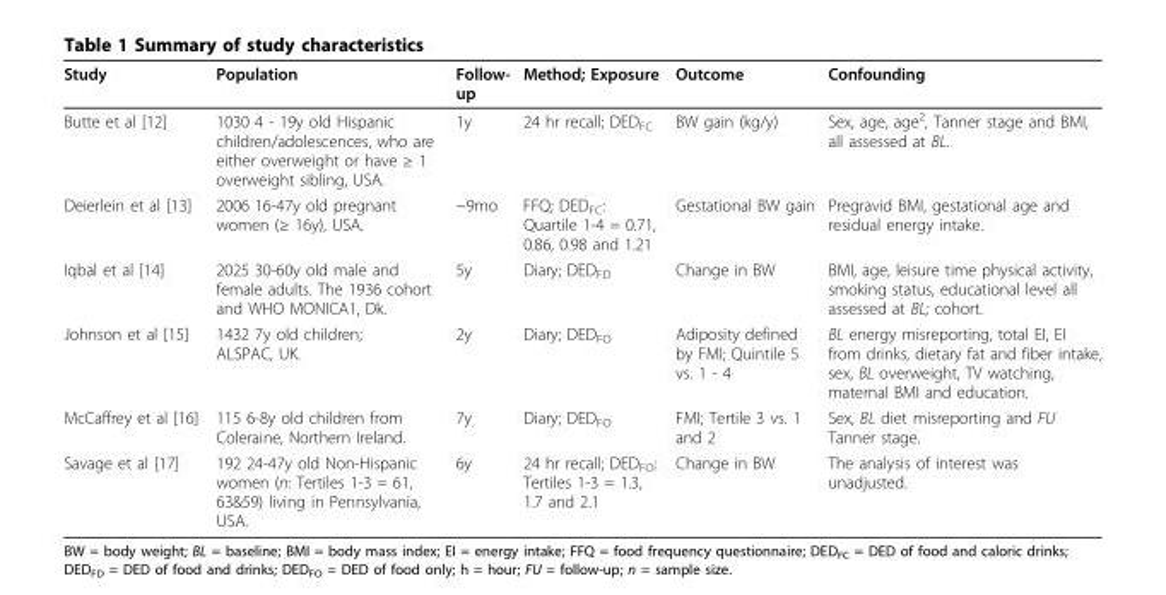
<table><thead><tr><td>Study</td><td>Population</td><td>Follow- up</td><td>Method; Exposure</td><td>Outcome</td><td>Confounding</td></tr></thead><tbody><tr><td>Butte et al [12]</td><td>1030 4 - 19y old Hispanic children/adolescences, who are either overweight or have ≥ 1 overweight sibling, USA.</td><td>1y</td><td>24 hr recall; DED<sub>FC</sub></td><td>BW gain (kg/y)</td><td>Sex, age, age<sup>2</sup>, Tanner stage and BMI, all assessed at BL.</td></tr><tr><td>Deierlein et al [13]</td><td>2006 16-47y old pregnant women (≥ 16y), USA.</td><td>~9mo</td><td>FFQ; DED<sub>FC</sub>: Quartile 1-4 = 0.71, 0.86, 0.98 and 1.21</td><td>Gestational BW gain</td><td>Pregravid BMI, gestational age and residual energy intake.</td></tr><tr><td>Iqbal et al [14]</td><td>2025 30-60y old male and female adults. The 1936 cohort and WHO MONICA1, Dk.</td><td>5y</td><td>Diary; DED<sub>FD</sub></td><td>Change in BW</td><td>BMI, age, leisure time physical activity, smoking status, educational level all assessed at BL; cohort.</td></tr><tr><td>Johnson et al [15]</td><td>1432 7y old children; ALSPAC, UK.</td><td>2y</td><td>Diary; DED<sub>FO</sub></td><td>Adiposity defined by FMI; Quintile 5 vs. 1 - 4</td><td>BL energy misreporting, total EI, EI from drinks, dietary fat and fiber intake, sex, BL overweight, TV watching, maternal BMI and education.</td></tr><tr><td>McCaffrey et al [16]</td><td>115 6-8y old children from Coleraine, Northern Ireland.</td><td>7y</td><td>Diary; DED<sub>FO</sub></td><td>FMI; Tertile 3 vs. 1 and 2</td><td>Sex, BL diet misreporting and FU Tanner stage.</td></tr><tr><td>Savage et al [17]</td><td>192 24-47y old Non-Hispanic women (n: Tertiles 1-3 = 61, 63&amp;59) living in Pennsylvania, USA.</td><td>6y</td><td>24 hr recall; DED<sub>FO</sub>: Tertiles 1-3 = 1.3, 1.7 and 2.1</td><td>Change in BW</td><td>The analysis of interest was unadjusted.</td></tr></tbody></table>